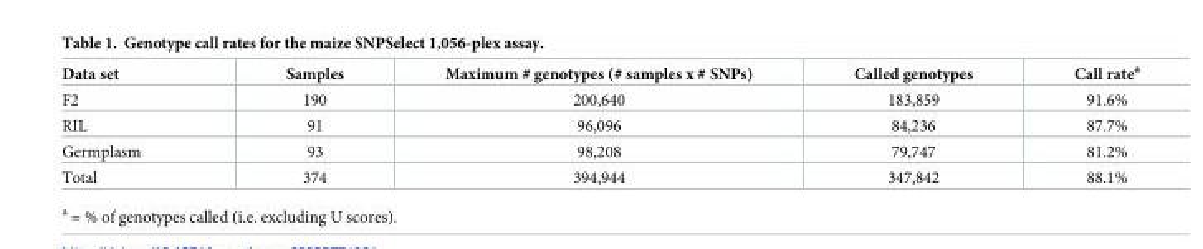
<table><thead><tr><td>Data set</td><td>Samples</td><td>Maximum # genotypes (# samples x # SNPs)</td><td>Called genotypes</td><td>Call rate<sup>a</sup></td></tr></thead><tbody><tr><td>F2</td><td>190</td><td>200,640</td><td>183,859</td><td>91.6%</td></tr><tr><td>RIL</td><td>91</td><td>96,096</td><td>84,236</td><td>87.7%</td></tr><tr><td>Germplasm</td><td>93</td><td>98,208</td><td>79,747</td><td>81.2%</td></tr><tr><td>Total</td><td>374</td><td>394,944</td><td>347,842</td><td>88.1%</td></tr></tbody></table>